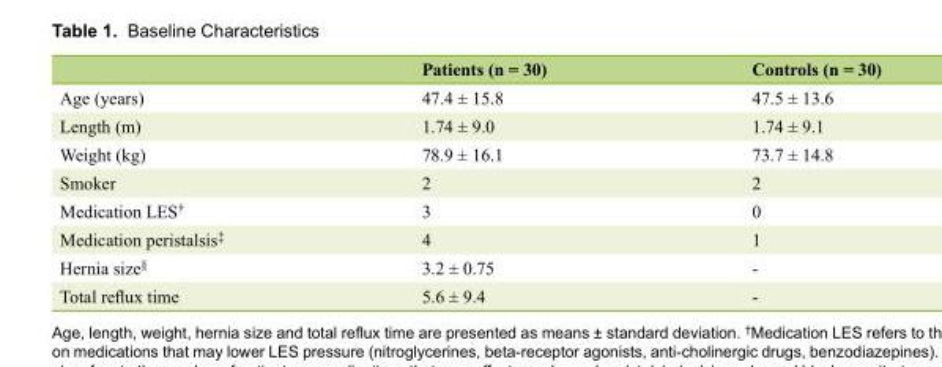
<table><thead><tr><td></td><td>Patients (n = 30)</td><td>Controls (n = 30)</td></tr></thead><tbody><tr><td>Age (years)</td><td>47.4 ± 15.8</td><td>47.5 ± 13.6</td></tr><tr><td>Length (m)</td><td>1.74 ± 9.0</td><td>1.74 ± 9.1</td></tr><tr><td>Weight (kg)</td><td>78.9 ± 16.1</td><td>73.7 ± 14.8</td></tr><tr><td>Smoker</td><td>2</td><td>2</td></tr><tr><td>Medication LES<sup>†</sup></td><td>3</td><td>0</td></tr><tr><td>Medication peristalsis<sup>‡</sup></td><td>4</td><td>1</td></tr><tr><td>Hernia size<sup>§</sup></td><td>3.2 ± 0.75</td><td>-</td></tr><tr><td>Total reflux time</td><td>5.6 ± 9.4</td><td>-</td></tr></tbody></table>